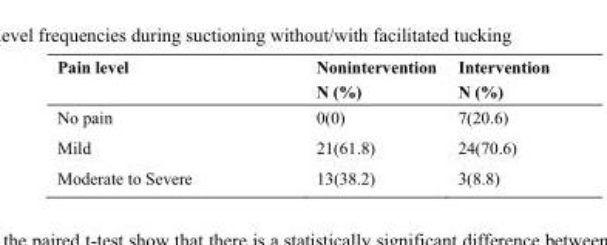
<table><thead><tr><td>Pain level</td><td>Nonintervention N (%)</td><td>Intervention N (%)</td></tr></thead><tbody><tr><td>No pain</td><td>0(0)</td><td>7(20.6)</td></tr><tr><td>Mild</td><td>21(61.8)</td><td>24(70.6)</td></tr><tr><td>Moderate to Severe</td><td>13(38.2)</td><td>3(8.8)</td></tr></tbody></table>